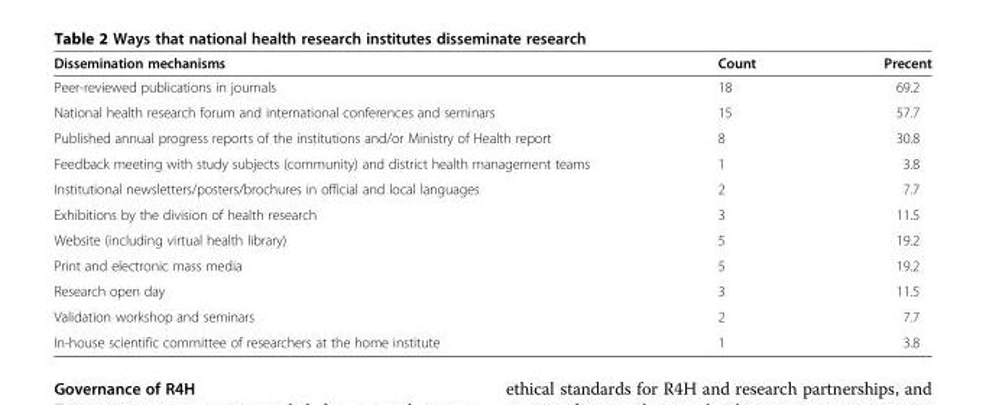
<table><thead><tr><td>Dissemination mechanisms</td><td>Count</td><td>Precent</td></tr></thead><tbody><tr><td>Peer-reviewed publications in journals</td><td>18</td><td>69.2</td></tr><tr><td>National health research forum and international conferences and seminars</td><td>15</td><td>57.7</td></tr><tr><td>Published annual progress reports of the institutions and/or Ministry of Health report</td><td>8</td><td>30.8</td></tr><tr><td>Feedback meeting with study subjects (community) and district health management teams</td><td>1</td><td>3.8</td></tr><tr><td>Institutional newsletters/posters/brochures in official and local languages</td><td>2</td><td>7.7</td></tr><tr><td>Exhibitions by the division of health research</td><td>3</td><td>11.5</td></tr><tr><td>Website (including virtual health library)</td><td>5</td><td>19.2</td></tr><tr><td>Print and electronic mass media</td><td>5</td><td>19.2</td></tr><tr><td>Research open day</td><td>3</td><td>11.5</td></tr><tr><td>Validation workshop and seminars</td><td>2</td><td>7.7</td></tr><tr><td>In-house scientific committee of researchers at the home institute</td><td>1</td><td>3.8</td></tr></tbody></table>